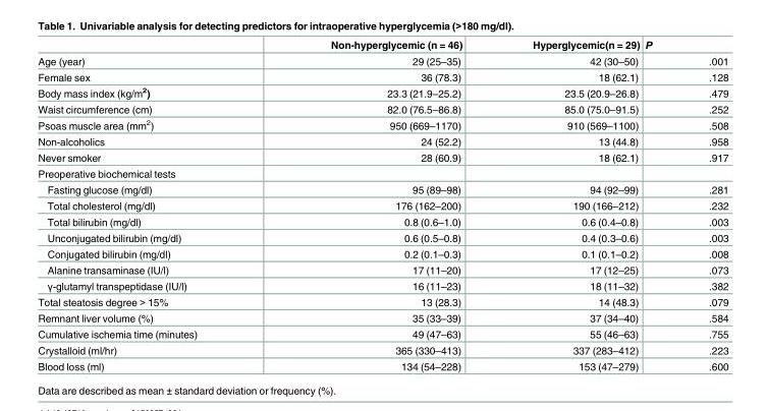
<table><thead><tr><td></td><td>Non-hyperglycemic (n = 46)</td><td>Hyperglycemic(n = 29)</td><td>P</td></tr></thead><tbody><tr><td>Age (year)</td><td>29 (25–35)</td><td>42 (30–50)</td><td>.001</td></tr><tr><td>Female sex</td><td>36 (78.3)</td><td>18 (62.1)</td><td>.128</td></tr><tr><td>Body mass index (kg/m<sup>2</sup>)</td><td>23.3 (21.9–25.2)</td><td>23.5 (20.9–26.8)</td><td>.479</td></tr><tr><td>Waist circumference (cm)</td><td>82.0 (76.5–86.8)</td><td>85.0 (75.0–91.5)</td><td>.252</td></tr><tr><td>Psoas muscle area (mm<sup>2</sup>)</td><td>950 (669–1170)</td><td>910 (569–1100)</td><td>.508</td></tr><tr><td>Non-alcoholics</td><td>24 (52.2)</td><td>13 (44.8)</td><td>.958</td></tr><tr><td>Never smoker</td><td>28 (60.9)</td><td>18 (62.1)</td><td>.917</td></tr><tr><td colspan="4">Preoperative biochemical tests</td></tr><tr><td>Fasting glucose (mg/dl)</td><td>95 (89–98)</td><td>94 (92–99)</td><td>.281</td></tr><tr><td>Total cholesterol (mg/dl)</td><td>176 (162–200)</td><td>190 (166–212)</td><td>.232</td></tr><tr><td>Total bilirubin (mg/dl)</td><td>0.8 (0.6–1.0)</td><td>0.6 (0.4–0.8)</td><td>.003</td></tr><tr><td>Unconjugated bilirubin (mg/dl)</td><td>0.6 (0.5–0.8)</td><td>0.4 (0.3–0.6)</td><td>.003</td></tr><tr><td>Conjugated bilirubin (mg/dl)</td><td>0.2 (0.1–0.3)</td><td>0.1 (0.1–0.2)</td><td>.008</td></tr><tr><td>Alanine transaminase (IU/l)</td><td>17 (11–20)</td><td>17 (12–25)</td><td>.073</td></tr><tr><td>γ-glutamyl transpeptidase (IU/l)</td><td>16 (11–23)</td><td>18 (11–32)</td><td>.382</td></tr><tr><td>Total steatosis degree &gt; 15%</td><td>13 (28.3)</td><td>14 (48.3)</td><td>.079</td></tr><tr><td>Remnant liver volume (%)</td><td>35 (33–39)</td><td>37 (34–40)</td><td>.584</td></tr><tr><td>Cumulative ischemia time (minutes)</td><td>49 (47–63)</td><td>55 (46–63)</td><td>.755</td></tr><tr><td>Crystalloid (ml/hr)</td><td>365 (330–413)</td><td>337 (283–412)</td><td>.223</td></tr><tr><td>Blood loss (ml)</td><td>134 (54–228)</td><td>153 (47–279)</td><td>.600</td></tr></tbody></table>